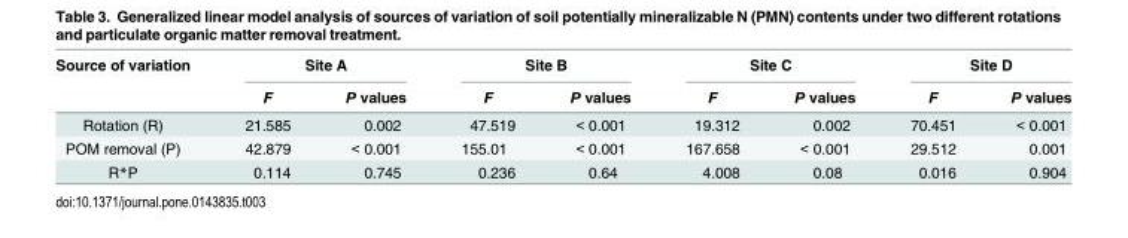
<table><thead><tr><td rowspan="2">Source of variation</td><td colspan="2">Site A</td><td colspan="2">Site B</td><td colspan="2">Site C</td><td colspan="2">Site D</td></tr><tr><td>F</td><td>P values</td><td>F</td><td>P values</td><td>F</td><td>P values</td><td>F</td><td>P values</td></tr></thead><tbody><tr><td>Rotation (R)</td><td>21.585</td><td>0.002</td><td>47.519</td><td>&lt; 0.001</td><td>19.312</td><td>0.002</td><td>70.451</td><td>&lt; 0.001</td></tr><tr><td>POM removal (P)</td><td>42.879</td><td>&lt; 0.001</td><td>155.01</td><td>&lt; 0.001</td><td>167.658</td><td>&lt; 0.001</td><td>29.512</td><td>0.001</td></tr><tr><td>R*P</td><td>0.114</td><td>0.745</td><td>0.236</td><td>0.64</td><td>4.008</td><td>0.08</td><td>0.016</td><td>0.904</td></tr></tbody></table>